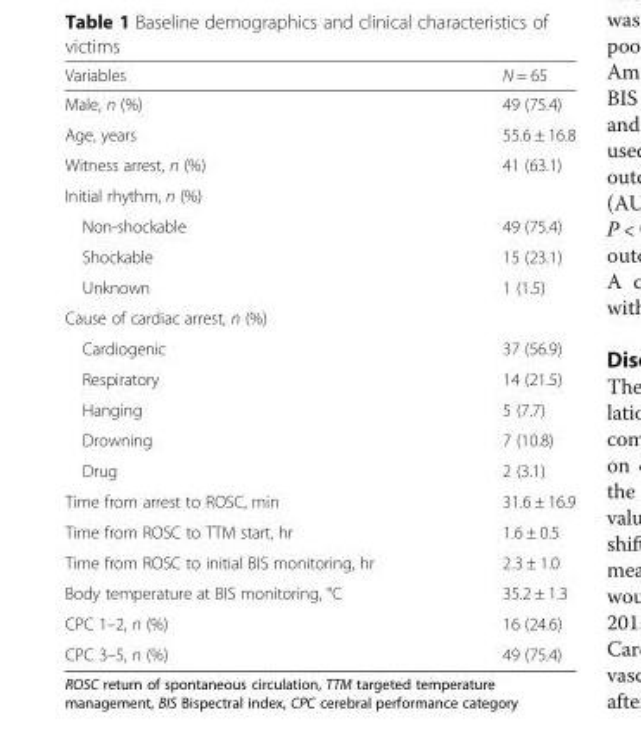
<table><thead><tr><td>Variables</td><td>N = 65</td></tr></thead><tbody><tr><td>Male, n (%)</td><td>49 (75.4)</td></tr><tr><td>Age, years</td><td>55.6 ± 16.8</td></tr><tr><td>Witness arrest, n (%)</td><td>41 (63.1)</td></tr><tr><td colspan="2">Initial rhythm, n (%)</td></tr><tr><td>Non-shockable</td><td>49 (75.4)</td></tr><tr><td>Shockable</td><td>15 (23.1)</td></tr><tr><td>Unknown</td><td>1 (1.5)</td></tr><tr><td colspan="2">Cause of cardiac arrest, n (%)</td></tr><tr><td>Cardiogenic</td><td>37 (56.9)</td></tr><tr><td>Respiratory</td><td>14 (21.5)</td></tr><tr><td>Hanging</td><td>5 (7.7)</td></tr><tr><td>Drowning</td><td>7 (10.8)</td></tr><tr><td>Drug</td><td>2 (3.1)</td></tr><tr><td>Time from arrest to ROSC, min</td><td>31.6 ± 16.9</td></tr><tr><td>Time from ROSC to TTM start, hr</td><td>1.6 ± 0.5</td></tr><tr><td>Time from ROSC to initial BIS monitoring, hr</td><td>2.3 ± 1.0</td></tr><tr><td>Body temperature at BIS monitoring, °C</td><td>35.2 ± 1.3</td></tr><tr><td>CPC 1–2, n (%)</td><td>16 (24.6)</td></tr><tr><td>CPC 3–5, n (%)</td><td>49 (75.4)</td></tr></tbody></table>